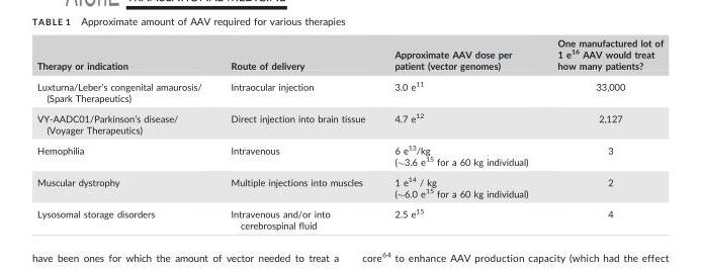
<table><thead><tr><td>Therapy or indication</td><td>Route of delivery</td><td>Approximate AAV dose per patient (vector genomes)</td><td>One manufactured lot of 1 e<sup>16</sup> AAV would treat how many patients?</td></tr></thead><tbody><tr><td>Luxturna/Leber’s congenital amaurosis/ (Spark Therapeutics)</td><td>Intraocular injection</td><td>3.0 e<sup>11</sup></td><td>33,000</td></tr><tr><td>VY-AADC01/Parkinson’s disease/ (Voyager Therapeutics)</td><td>Direct injection into brain tissue</td><td>4.7 e<sup>12</sup></td><td>2,127</td></tr><tr><td>Hemophilia</td><td>Intravenous</td><td>6 e<sup>13</sup>/kg (∼3.6 e<sup>15</sup> for a 60 kg individual)</td><td>3</td></tr><tr><td>Muscular dystrophy</td><td>Multiple injections into muscles</td><td>1 e<sup>14</sup> / kg (∼6.0 e<sup>15</sup> for a 60 kg individual)</td><td>2</td></tr><tr><td>Lysosomal storage disorders</td><td>Intravenous and/or into cerebrospinal fluid</td><td>2.5 e<sup>15</sup></td><td>4</td></tr></tbody></table>